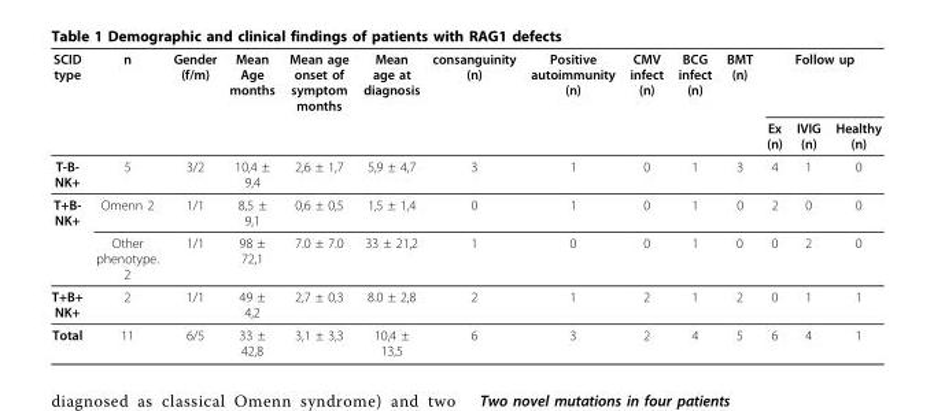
<table><thead><tr><td rowspan="2">SCID type</td><td rowspan="2">n</td><td rowspan="2">Gender (f/m)</td><td rowspan="2">Mean Age months</td><td rowspan="2">Mean age onset of symptom months</td><td rowspan="2">Mean age at diagnosis</td><td rowspan="2">consanguinity (n)</td><td rowspan="2">Positive autoimmunity (n)</td><td rowspan="2">CMV infect (n)</td><td rowspan="2">BCG infect (n)</td><td rowspan="2">BMT (n)</td><td colspan="3">Follow up</td></tr><tr><td>Ex (n)</td><td>IVIG (n)</td><td>Healthy (n)</td></tr></thead><tbody><tr><td>T-B- NK+</td><td>5</td><td>3/2</td><td>10,4 ± 9,4</td><td>2,6 ± 1,7</td><td>5,9 ± 4,7</td><td>3</td><td>1</td><td>0</td><td>1</td><td>3</td><td>4</td><td>1</td><td>0</td></tr><tr><td rowspan="2">T+B- NK+</td><td>Omenn 2</td><td>1/1</td><td>8,5 ± 9,1</td><td>0,6 ± 0,5</td><td>1,5 ± 1,4</td><td>0</td><td>1</td><td>0</td><td>1</td><td>0</td><td>2</td><td>0</td><td>0</td></tr><tr><td>Other phenotype. 2</td><td>1/1</td><td>98 ± 72,1</td><td>7.0 ± 7.0</td><td>33 ± 21,2</td><td>1</td><td>0</td><td>0</td><td>1</td><td>0</td><td>0</td><td>2</td><td>0</td></tr><tr><td>T+B+ NK+</td><td>2</td><td>1/1</td><td>49 ± 4,2</td><td>2,7 ± 0,3</td><td>8.0 ± 2,8</td><td>2</td><td>1</td><td>2</td><td>1</td><td>2</td><td>0</td><td>1</td><td>1</td></tr><tr><td>Total</td><td>11</td><td>6/5</td><td>33 ± 42,8</td><td>3,1 ± 3,3</td><td>10,4 ± 13,5</td><td>6</td><td>3</td><td>2</td><td>4</td><td>5</td><td>6</td><td>4</td><td>1</td></tr></tbody></table>